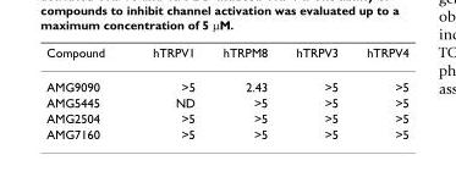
<table><thead><tr><td>Compound</td><td>hTRPV1</td><td>hTRPM8</td><td>hTRPV3</td><td>hTRPV4</td></tr></thead><tbody><tr><td>AMG9090</td><td>&gt;5</td><td>2.43</td><td>&gt;5</td><td>&gt;5</td></tr><tr><td>AMG5445</td><td>ND</td><td>&gt;5</td><td>&gt;5</td><td>&gt;5</td></tr><tr><td>AMG2504</td><td>&gt;5</td><td>&gt;5</td><td>&gt;5</td><td>&gt;5</td></tr><tr><td>AMG7160</td><td>&gt;5</td><td>&gt;5</td><td>&gt;5</td><td>&gt;5</td></tr></tbody></table>